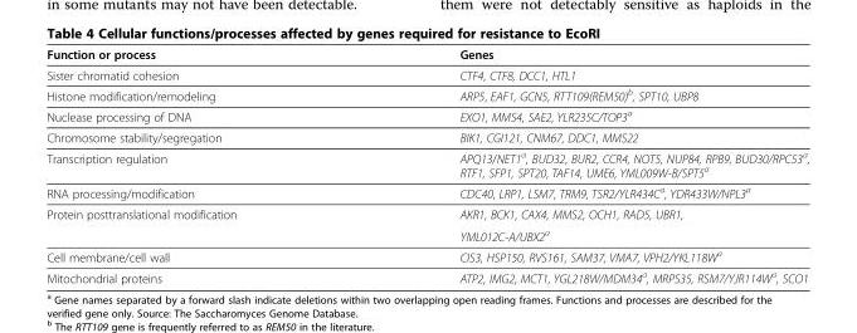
<table><thead><tr><td>Function or process</td><td>Genes</td></tr></thead><tbody><tr><td>Sister chromatid cohesion</td><td>CTF4, CTF8, DCC1, HTL1</td></tr><tr><td>Histone modification/remodeling</td><td>ARP5, EAF1, GCN5, RTT109(REM50)<sup>b</sup>, SPT10, UBP8</td></tr><tr><td>Nuclease processing of DNA</td><td>EXO1, MMS4, SAE2, YLR235C/TOP3<sup>a</sup></td></tr><tr><td>Chromosome stability/segregation</td><td>BIK1, CGI121, CNM67, DDC1, MMS22</td></tr><tr><td>Transcription regulation</td><td>APQ13/NET1<sup>a</sup>, BUD32, BUR2, CCR4, NOT5, NUP84, RPB9, BUD30/RPC53<sup>a</sup>, RTF1, SFP1, SPT20, TAF14, UME6, YML009W-B/SPT5<sup>a</sup></td></tr><tr><td>RNA processing/modification</td><td>CDC40, LRP1, LSM7, TRM9, TSR2/YLR434C<sup>a</sup>, YDR433W/NPL3<sup>a</sup></td></tr><tr><td rowspan="2">Protein posttranslational modification</td><td>AKR1, BCK1, CAX4, MMS2, OCH1, RAD5, UBR1,</td></tr><tr><td>YML012C-A/UBX2<sup>a</sup></td></tr><tr><td>Cell membrane/cell wall</td><td>CIS3, HSP150, RVS161, SAM37, VMA7, VPH2/YKL118W<sup>a</sup></td></tr><tr><td>Mitochondrial proteins</td><td>ATP2, IMG2, MCT1, YGL218W/MDM34<sup>a</sup>, MRPS35, RSM7/YJR114W<sup>a</sup>, SCO1</td></tr></tbody></table>